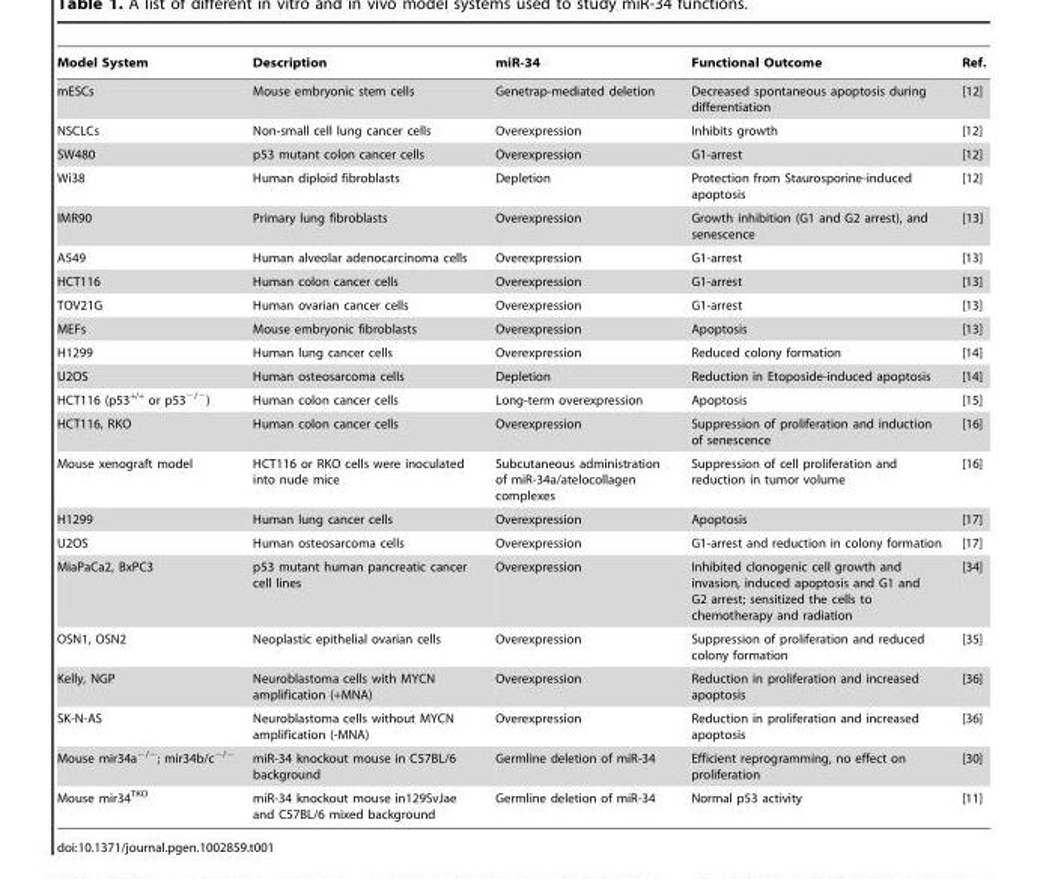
<table><thead><tr><td>Model System</td><td>Description</td><td>miR-34</td><td>Functional Outcome</td><td>Ref.</td></tr></thead><tbody><tr><td>mESCs</td><td>Mouse embryonic stem cells</td><td>Genetrap-mediated deletion</td><td>Decreased spontaneous apoptosis during differentiation</td><td>[12]</td></tr><tr><td>NSCLCs</td><td>Non-small cell lung cancer cells</td><td>Overexpression</td><td>Inhibits growth</td><td>[12]</td></tr><tr><td>SW480</td><td>p53 mutant colon cancer cells</td><td>Overexpression</td><td>G1-arrest</td><td>[12]</td></tr><tr><td>Wi38</td><td>Human diploid fibroblasts</td><td>Depletion</td><td>Protection from Staurosporine-induced apoptosis</td><td>[12]</td></tr><tr><td>IMR90</td><td>Primary lung fibroblasts</td><td>Overexpression</td><td>Growth inhibition (G1 and G2 arrest), and senescence</td><td>[13]</td></tr><tr><td>A549</td><td>Human alveolar adenocarcinoma cells</td><td>Overexpression</td><td>G1-arrest</td><td>[13]</td></tr><tr><td>HCT116</td><td>Human colon cancer cells</td><td>Overexpression</td><td>G1-arrest</td><td>[13]</td></tr><tr><td>TOV21G</td><td>Human ovarian cancer cells</td><td>Overexpression</td><td>G1-arrest</td><td>[13]</td></tr><tr><td>MEFs</td><td>Mouse embryonic fibroblasts</td><td>Overexpression</td><td>Apoptosis</td><td>[13]</td></tr><tr><td>H1299</td><td>Human lung cancer cells</td><td>Overexpression</td><td>Reduced colony formation</td><td>[14]</td></tr><tr><td>U2OS</td><td>Human osteosarcoma cells</td><td>Depletion</td><td>Reduction in Etoposide-induced apoptosis</td><td>[14]</td></tr><tr><td>HCT116 (p53<sup>+/+</sup> or p53<sup>−/−</sup>)</td><td>Human colon cancer cells</td><td>Long-term overexpression</td><td>Apoptosis</td><td>[15]</td></tr><tr><td>HCT116, RKO</td><td>Human colon cancer cells</td><td>Overexpression</td><td>Suppression of proliferation and induction of senescence</td><td>[16]</td></tr><tr><td>Mouse xenograft model</td><td>HCT116 or RKO cells were inoculated into nude mice</td><td>Subcutaneous administration of miR-34a/atelocollagen complexes</td><td>Suppression of cell proliferation and reduction in tumor volume</td><td>[16]</td></tr><tr><td>H1299</td><td>Human lung cancer cells</td><td>Overexpression</td><td>Apoptosis</td><td>[17]</td></tr><tr><td>U2OS</td><td>Human osteosarcoma cells</td><td>Overexpression</td><td>G1-arrest and reduction in colony formation</td><td>[17]</td></tr><tr><td>MiaPaCa2, BxPC3</td><td>p53 mutant human pancreatic cancer cell lines</td><td>Overexpression</td><td>Inhibited clonogenic cell growth and invasion, induced apoptosis and G1 and G2 arrest; sensitized the cells to chemotherapy and radiation</td><td>[34]</td></tr><tr><td>OSN1, OSN2</td><td>Neoplastic epithelial ovarian cells</td><td>Overexpression</td><td>Suppression of proliferation and reduced colony formation</td><td>[35]</td></tr><tr><td>Kelly, NGP</td><td>Neuroblastoma cells with MYCN amplification (+MNA)</td><td>Overexpression</td><td>Reduction in proliferation and increased apoptosis</td><td>[36]</td></tr><tr><td>SK-N-AS</td><td>Neuroblastoma cells without MYCN amplification (-MNA)</td><td>Overexpression</td><td>Reduction in proliferation and increased apoptosis</td><td>[36]</td></tr><tr><td>Mouse mir34a<sup>−/−</sup>; mir34b/c<sup>−/−</sup></td><td>miR-34 knockout mouse in C57BL/6 background</td><td>Germline deletion of miR-34</td><td>Efficient reprogramming, no effect on proliferation</td><td>[30]</td></tr><tr><td>Mouse mir34<sup>TKO</sup></td><td>miR-34 knockout mouse in129SvJae and C57BL/6 mixed background</td><td>Germline deletion of miR-34</td><td>Normal p53 activity</td><td>[11]</td></tr></tbody></table>